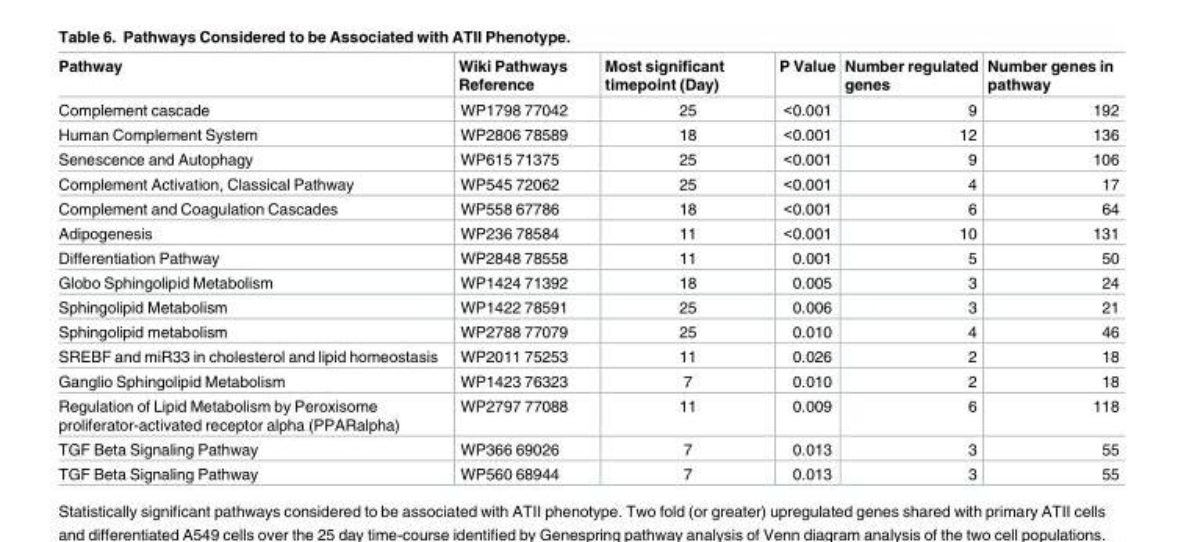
<table><thead><tr><td>Pathway</td><td>Wiki Pathways Reference</td><td>Most significant timepoint (Day)</td><td>P Value</td><td>Number regulated genes</td><td>Number genes in pathway</td></tr></thead><tbody><tr><td>Complement cascade</td><td>WP1798 77042</td><td>25</td><td>&lt;0.001</td><td>9</td><td>192</td></tr><tr><td>Human Complement System</td><td>WP2806 78589</td><td>18</td><td>&lt;0.001</td><td>12</td><td>136</td></tr><tr><td>Senescence and Autophagy</td><td>WP615 71375</td><td>25</td><td>&lt;0.001</td><td>9</td><td>106</td></tr><tr><td>Complement Activation, Classical Pathway</td><td>WP545 72062</td><td>25</td><td>&lt;0.001</td><td>4</td><td>17</td></tr><tr><td>Complement and Coagulation Cascades</td><td>WP558 67786</td><td>18</td><td>&lt;0.001</td><td>6</td><td>64</td></tr><tr><td>Adipogenesis</td><td>WP236 78584</td><td>11</td><td>&lt;0.001</td><td>10</td><td>131</td></tr><tr><td>Differentiation Pathway</td><td>WP2848 78558</td><td>11</td><td>0.001</td><td>5</td><td>50</td></tr><tr><td>Globo Sphingolipid Metabolism</td><td>WP1424 71392</td><td>18</td><td>0.005</td><td>3</td><td>24</td></tr><tr><td>Sphingolipid Metabolism</td><td>WP1422 78591</td><td>25</td><td>0.006</td><td>3</td><td>21</td></tr><tr><td>Sphingolipid metabolism</td><td>WP2788 77079</td><td>25</td><td>0.010</td><td>4</td><td>46</td></tr><tr><td>SREBF and miR33 in cholesterol and lipid homeostasis</td><td>WP2011 75253</td><td>11</td><td>0.026</td><td>2</td><td>18</td></tr><tr><td>Ganglio Sphingolipid Metabolism</td><td>WP1423 76323</td><td>7</td><td>0.010</td><td>2</td><td>18</td></tr><tr><td>Regulation of Lipid Metabolism by Peroxisome proliferator-activated receptor alpha (PPARalpha)</td><td>WP2797 77088</td><td>11</td><td>0.009</td><td>6</td><td>118</td></tr><tr><td>TGF Beta Signaling Pathway</td><td>WP366 69026</td><td>7</td><td>0.013</td><td>3</td><td>55</td></tr><tr><td>TGF Beta Signaling Pathway</td><td>WP560 68944</td><td>7</td><td>0.013</td><td>3</td><td>55</td></tr></tbody></table>